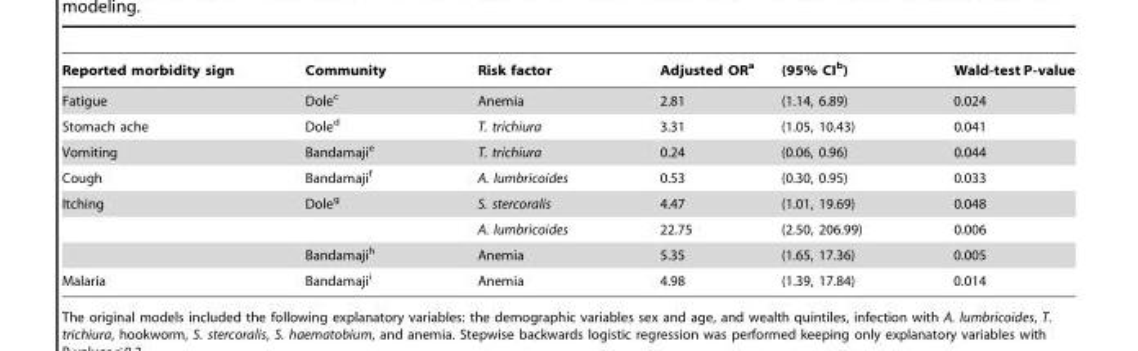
<table><thead><tr><td>Reported morbidity sign</td><td>Community</td><td>Risk factor</td><td>Adjusted OR<sup>a</sup></td><td>(95% CI<sup>b</sup>)</td><td>Wald-test P-value</td></tr></thead><tbody><tr><td>Fatigue</td><td>Dole<sup>c</sup></td><td>Anemia</td><td>2.81</td><td>(1.14, 6.89)</td><td>0.024</td></tr><tr><td>Stomach ache</td><td>Dole<sup>d</sup></td><td>T. trichiura</td><td>3.31</td><td>(1.05, 10.43)</td><td>0.041</td></tr><tr><td>Vomiting</td><td>Bandamaji<sup>e</sup></td><td>T. trichiura</td><td>0.24</td><td>(0.06, 0.96)</td><td>0.044</td></tr><tr><td>Cough</td><td>Bandamaji<sup>f</sup></td><td>A. lumbricoides</td><td>0.53</td><td>(0.30, 0.95)</td><td>0.033</td></tr><tr><td rowspan="3">Itching</td><td>Dole<sup>g</sup></td><td>S. stercoralis</td><td>4.47</td><td>(1.01, 19.69)</td><td>0.048</td></tr><tr><td></td><td>A. lumbricoides</td><td>22.75</td><td>(2.50, 206.99)</td><td>0.006</td></tr><tr><td>Bandamaji<sup>h</sup></td><td>Anemia</td><td>5.35</td><td>(1.65, 17.36)</td><td>0.005</td></tr><tr><td>Malaria</td><td>Bandamaji<sup>i</sup></td><td>Anemia</td><td>4.98</td><td>(1.39, 17.84)</td><td>0.014</td></tr></tbody></table>